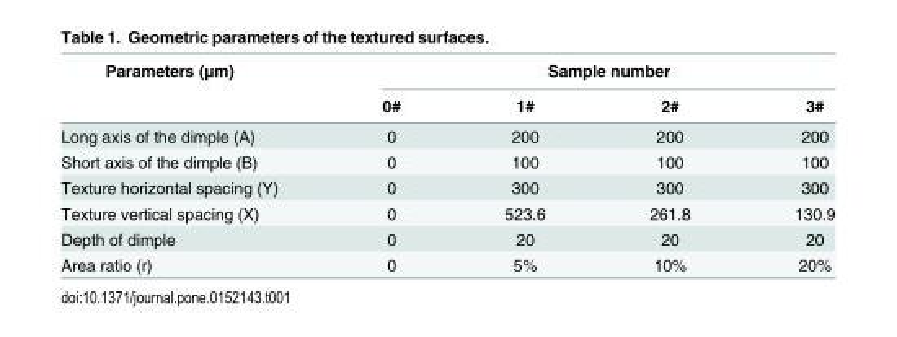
<table><thead><tr><td rowspan="2">Parameters (μm)</td><td colspan="4">Sample number</td></tr><tr><td>0#</td><td>1#</td><td>2#</td><td>3#</td></tr></thead><tbody><tr><td>Long axis of the dimple (A)</td><td>0</td><td>200</td><td>200</td><td>200</td></tr><tr><td>Short axis of the dimple (B)</td><td>0</td><td>100</td><td>100</td><td>100</td></tr><tr><td>Texture horizontal spacing (Y)</td><td>0</td><td>300</td><td>300</td><td>300</td></tr><tr><td>Texture vertical spacing (X)</td><td>0</td><td>523.6</td><td>261.8</td><td>130.9</td></tr><tr><td>Depth of dimple</td><td>0</td><td>20</td><td>20</td><td>20</td></tr><tr><td>Area ratio (r)</td><td>0</td><td>5%</td><td>10%</td><td>20%</td></tr></tbody></table>